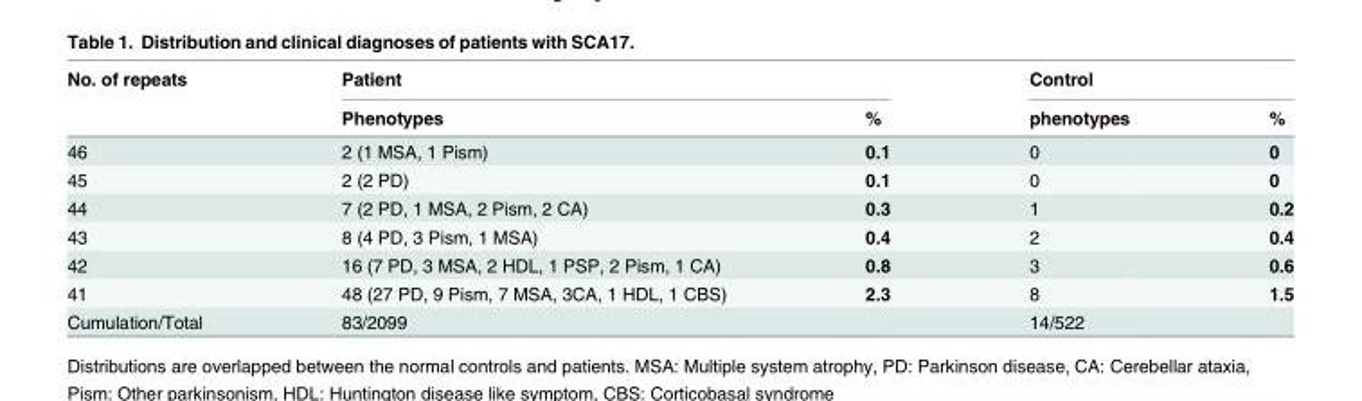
<table><thead><tr><td rowspan="2">No. of repeats</td><td colspan="2">Patient</td><td colspan="2">Control</td></tr><tr><td>Phenotypes</td><td>%</td><td>phenotypes</td><td>%</td></tr></thead><tbody><tr><td>46</td><td>2 (1 MSA, 1 Pism)</td><td>0.1</td><td>0</td><td>0</td></tr><tr><td>45</td><td>2 (2 PD)</td><td>0.1</td><td>0</td><td>0</td></tr><tr><td>44</td><td>7 (2 PD, 1 MSA, 2 Pism, 2 CA)</td><td>0.3</td><td>1</td><td>0.2</td></tr><tr><td>43</td><td>8 (4 PD, 3 Pism, 1 MSA)</td><td>0.4</td><td>2</td><td>0.4</td></tr><tr><td>42</td><td>16 (7 PD, 3 MSA, 2 HDL, 1 PSP, 2 Pism, 1 CA)</td><td>0.8</td><td>3</td><td>0.6</td></tr><tr><td>41</td><td>48 (27 PD, 9 Pism, 7 MSA, 3CA, 1 HDL, 1 CBS)</td><td>2.3</td><td>8</td><td>1.5</td></tr><tr><td>Cumulation/Total</td><td>83/2099</td><td></td><td>14/522</td><td></td></tr></tbody></table>